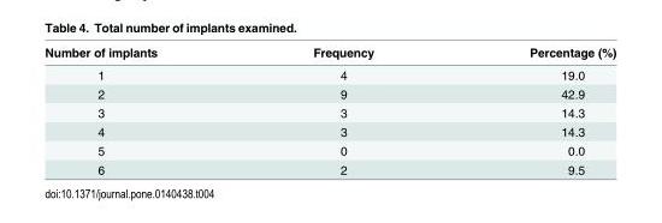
<table><thead><tr><td>Number of implants</td><td>Frequency</td><td>Percentage (%)</td></tr></thead><tbody><tr><td>1</td><td>4</td><td>19.0</td></tr><tr><td>2</td><td>9</td><td>42.9</td></tr><tr><td>3</td><td>3</td><td>14.3</td></tr><tr><td>4</td><td>3</td><td>14.3</td></tr><tr><td>5</td><td>0</td><td>0.0</td></tr><tr><td>6</td><td>2</td><td>9.5</td></tr></tbody></table>